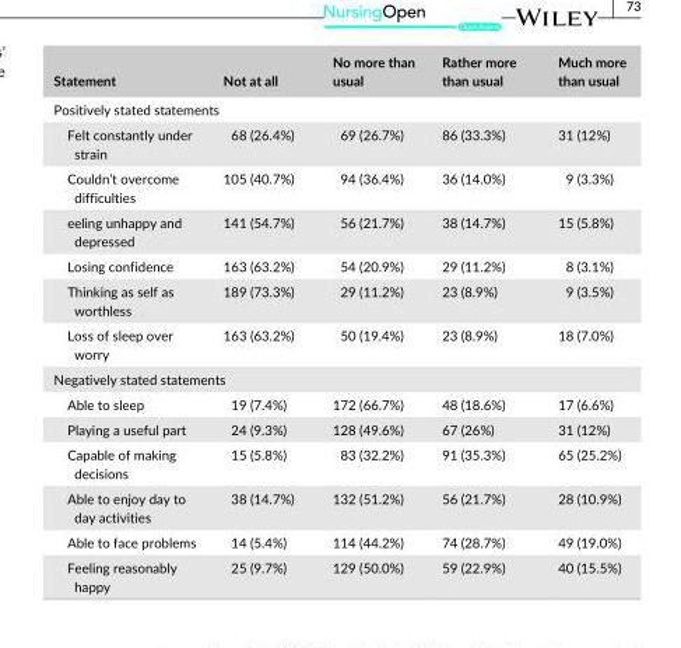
<table><thead><tr><td>Statement</td><td>Not at all</td><td>No more than usual</td><td>Rather more than usual</td><td>Much more than usual</td></tr></thead><tbody><tr><td colspan="5">Positively stated statements</td></tr><tr><td>Felt constantly under strain</td><td>68 (26.4%)</td><td>69 (26.7%)</td><td>86 (33.3%)</td><td>31 (12%)</td></tr><tr><td>Couldn’t overcome difficulties</td><td>105 (40.7%)</td><td>94 (36.4%)</td><td>36 (14.0%)</td><td>9 (3.3%)</td></tr><tr><td>eeling unhappy and depressed</td><td>141 (54.7%)</td><td>56 (21.7%)</td><td>38 (14.7%)</td><td>15 (5.8%)</td></tr><tr><td>Losing confidence</td><td>163 (63.2%)</td><td>54 (20.9%)</td><td>29 (11.2%)</td><td>8 (3.1%)</td></tr><tr><td>Thinking as self as worthless</td><td>189 (73.3%)</td><td>29 (11.2%)</td><td>23 (8.9%)</td><td>9 (3.5%)</td></tr><tr><td>Loss of sleep over worry</td><td>163 (63.2%)</td><td>50 (19.4%)</td><td>23 (8.9%)</td><td>18 (7.0%)</td></tr><tr><td colspan="5">Negatively stated statements</td></tr><tr><td>Able to sleep</td><td>19 (7.4%)</td><td>172 (66.7%)</td><td>48 (18.6%)</td><td>17 (6.6%)</td></tr><tr><td>Playing a useful part</td><td>24 (9.3%)</td><td>128 (49.6%)</td><td>67 (26%)</td><td>31 (12%)</td></tr><tr><td>Capable of making decisions</td><td>15 (5.8%)</td><td>83 (32.2%)</td><td>91 (35.3%)</td><td>65 (25.2%)</td></tr><tr><td>Able to enjoy day to day activities</td><td>38 (14.7%)</td><td>132 (51.2%)</td><td>56 (21.7%)</td><td>28 (10.9%)</td></tr><tr><td>Able to face problems</td><td>14 (5.4%)</td><td>114 (44.2%)</td><td>74 (28.7%)</td><td>49 (19.0%)</td></tr><tr><td>Feeling reasonably happy</td><td>25 (9.7%)</td><td>129 (50.0%)</td><td>59 (22.9%)</td><td>40 (15.5%)</td></tr></tbody></table>